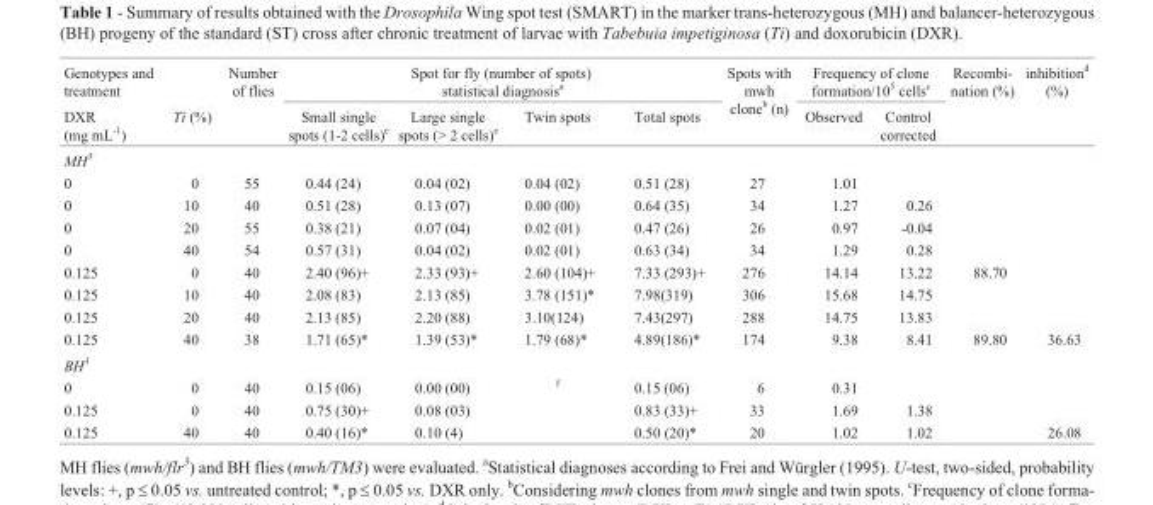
<table><thead><tr><td rowspan="2">Genotypes and treatment DXR (mg mL<sup>-1</sup>)</td><td rowspan="2">Ti (%)</td><td rowspan="2">Number of flies</td><td colspan="4">Spot for fly (number of spots) statistical diagnosis<sup>a</sup></td><td rowspan="2">Spots with mwh clone<sup>b</sup> (n)</td><td colspan="2">Frequency of clone formation/10<sup>5</sup> cells<sup>c</sup></td><td rowspan="2">Recombi- nation (%)</td><td rowspan="2">inhibition<sup>d</sup> (%)</td></tr><tr><td>Small single spots (1-2 cells)<sup>e</sup></td><td>Large single spots (&gt; 2 cells)<sup>e</sup></td><td>Twin spots</td><td>Total spots</td><td>Observed</td><td>Control corrected</td></tr></thead><tbody><tr><td colspan="12">MH<sup>3</sup></td></tr><tr><td>0</td><td>0</td><td>55</td><td>0.44 (24)</td><td>0.04 (02)</td><td>0.04 (02)</td><td>0.51 (28)</td><td>27</td><td>1.01</td><td></td><td></td><td></td></tr><tr><td>0</td><td>10</td><td>40</td><td>0.51 (28)</td><td>0.13 (07)</td><td>0.00 (00)</td><td>0.64 (35)</td><td>34</td><td>1.27</td><td>0.26</td><td></td><td></td></tr><tr><td>0</td><td>20</td><td>55</td><td>0.38 (21)</td><td>0.07 (04)</td><td>0.02 (01)</td><td>0.47 (26)</td><td>26</td><td>0.97</td><td>-0.04</td><td></td><td></td></tr><tr><td>0</td><td>40</td><td>54</td><td>0.57 (31)</td><td>0.04 (02)</td><td>0.02 (01)</td><td>0.63 (34)</td><td>34</td><td>1.29</td><td>0.28</td><td></td><td></td></tr><tr><td>0.125</td><td>0</td><td>40</td><td>2.40 (96)+</td><td>2.33 (93)+</td><td>2.60 (104)+</td><td>7.33 (293)+</td><td>276</td><td>14.14</td><td>13.22</td><td>88.70</td><td></td></tr><tr><td>0.125</td><td>10</td><td>40</td><td>2.08 (83)</td><td>2.13 (85)</td><td>3.78 (151)*</td><td>7.98(319)</td><td>306</td><td>15.68</td><td>14.75</td><td></td><td></td></tr><tr><td>0.125</td><td>20</td><td>40</td><td>2.13 (85)</td><td>2.20 (88)</td><td>3.10(124)</td><td>7.43(297)</td><td>288</td><td>14.75</td><td>13.83</td><td></td><td></td></tr><tr><td>0.125</td><td>40</td><td>38</td><td>1.71 (65)*</td><td>1.39 (53)*</td><td>1.79 (68)*</td><td>4.89(186)*</td><td>174</td><td>9.38</td><td>8.41</td><td>89.80</td><td>36.63</td></tr><tr><td colspan="12">BH<sup>3</sup></td></tr><tr><td>0</td><td>0</td><td>40</td><td>0.15 (06)</td><td>0.00 (00)</td><td><sup>f</sup></td><td>0.15 (06)</td><td>6</td><td>0.31</td><td></td><td></td><td></td></tr><tr><td>0.125</td><td>0</td><td>40</td><td>0.75 (30)+</td><td>0.08 (03)</td><td></td><td>0.83 (33)+</td><td>33</td><td>1.69</td><td>1.38</td><td></td><td></td></tr><tr><td>0.125</td><td>40</td><td>40</td><td>0.40 (16)*</td><td>0.10 (4)</td><td></td><td>0.50 (20)*</td><td>20</td><td>1.02</td><td>1.02</td><td></td><td>26.08</td></tr></tbody></table>